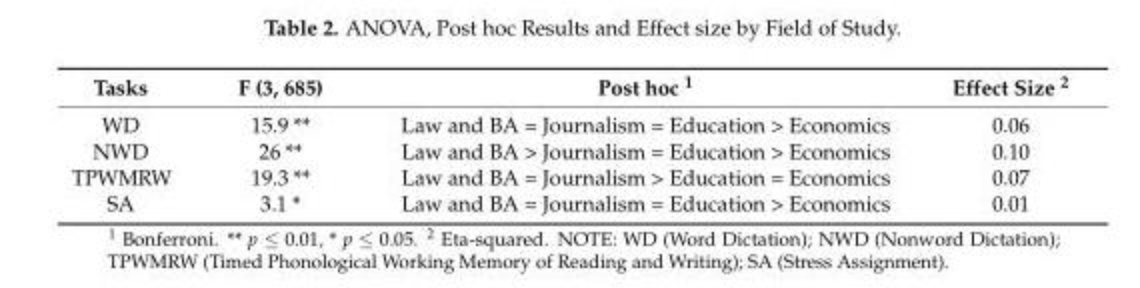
<table><thead><tr><td>Tasks</td><td>F (3, 685)</td><td>Post hoc <sup>1</sup></td><td>Effect Size <sup>2</sup></td></tr></thead><tbody><tr><td>WD</td><td>15.9 **</td><td>Law and BA = Journalism = Education &gt; Economics</td><td>0.06</td></tr><tr><td>NWD</td><td>26 **</td><td>Law and BA &gt; Journalism = Education &gt; Economics</td><td>0.10</td></tr><tr><td>TPWMRW</td><td>19.3 **</td><td>Law and BA = Journalism &gt; Education = Economics</td><td>0.07</td></tr><tr><td>SA</td><td>3.1 *</td><td>Law and BA = Journalism = Education &gt; Economics</td><td>0.01</td></tr></tbody></table>